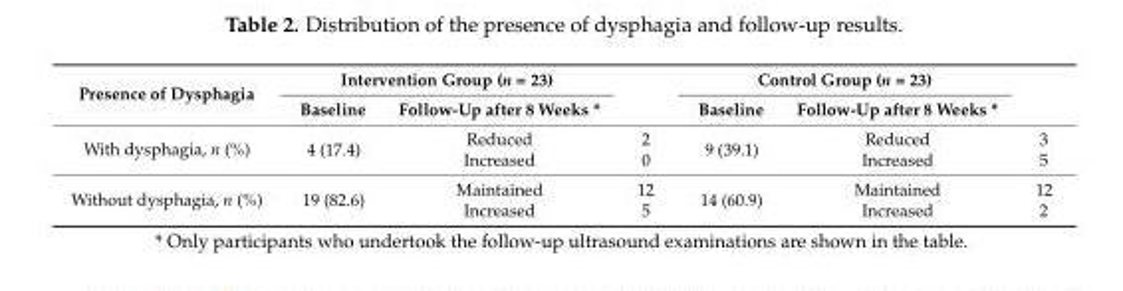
<table><thead><tr><td rowspan="2">Presence of Dysphagia</td><td colspan="2">Intervention Group (n = 23)</td><td rowspan="2"></td><td colspan="2">Control Group (n = 23)</td><td rowspan="2"></td></tr><tr><td>Baseline</td><td>Follow-Up after 8 Weeks *</td><td>Baseline</td><td>Follow-Up after 8 Weeks *</td></tr></thead><tbody><tr><td rowspan="2">With dysphagia, n (%)</td><td rowspan="2">4 (17.4)</td><td>Reduced</td><td>2</td><td rowspan="2">9 (39.1)</td><td>Reduced</td><td>3</td></tr><tr><td>Increased</td><td>0</td><td>Increased</td><td>5</td></tr><tr><td rowspan="2">Without dysphagia, n (%)</td><td rowspan="2">19 (82.6)</td><td>Maintained</td><td>12</td><td rowspan="2">14 (60.9)</td><td>Maintained</td><td>12</td></tr><tr><td>Increased</td><td>5</td><td>Increased</td><td>2</td></tr></tbody></table>